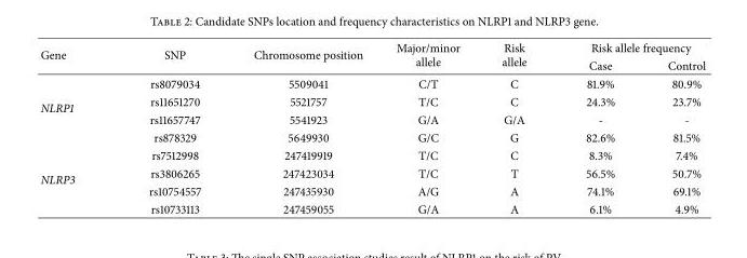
<table><thead><tr><td rowspan="2">Gene</td><td rowspan="2">SNP</td><td rowspan="2">Chromosome position</td><td rowspan="2">Major/minor allele</td><td rowspan="2">Risk allele</td><td colspan="2">Risk allele frequency</td></tr><tr><td>Case</td><td>Control</td></tr></thead><tbody><tr><td rowspan="4">NLRP1</td><td>rs8079034</td><td>5509041</td><td>C/T</td><td>C</td><td>81.9%</td><td>80.9%</td></tr><tr><td>rs11651270</td><td>5521757</td><td>T/C</td><td>C</td><td>24.3%</td><td>23.7%</td></tr><tr><td>rs11657747</td><td>5541923</td><td>G/A</td><td>G/A</td><td>-</td><td>-</td></tr><tr><td>rs878329</td><td>5649930</td><td>G/C</td><td>G</td><td>82.6%</td><td>81.5%</td></tr><tr><td rowspan="4">NLRP3</td><td>rs7512998</td><td>247419919</td><td>T/C</td><td>C</td><td>8.3%</td><td>7.4%</td></tr><tr><td>rs3806265</td><td>247423034</td><td>T/C</td><td>T</td><td>56.5%</td><td>50.7%</td></tr><tr><td>rs10754557</td><td>247435930</td><td>A/G</td><td>A</td><td>74.1%</td><td>69.1%</td></tr><tr><td>rs10733113</td><td>247459055</td><td>G/A</td><td>A</td><td>6.1%</td><td>4.9%</td></tr></tbody></table>